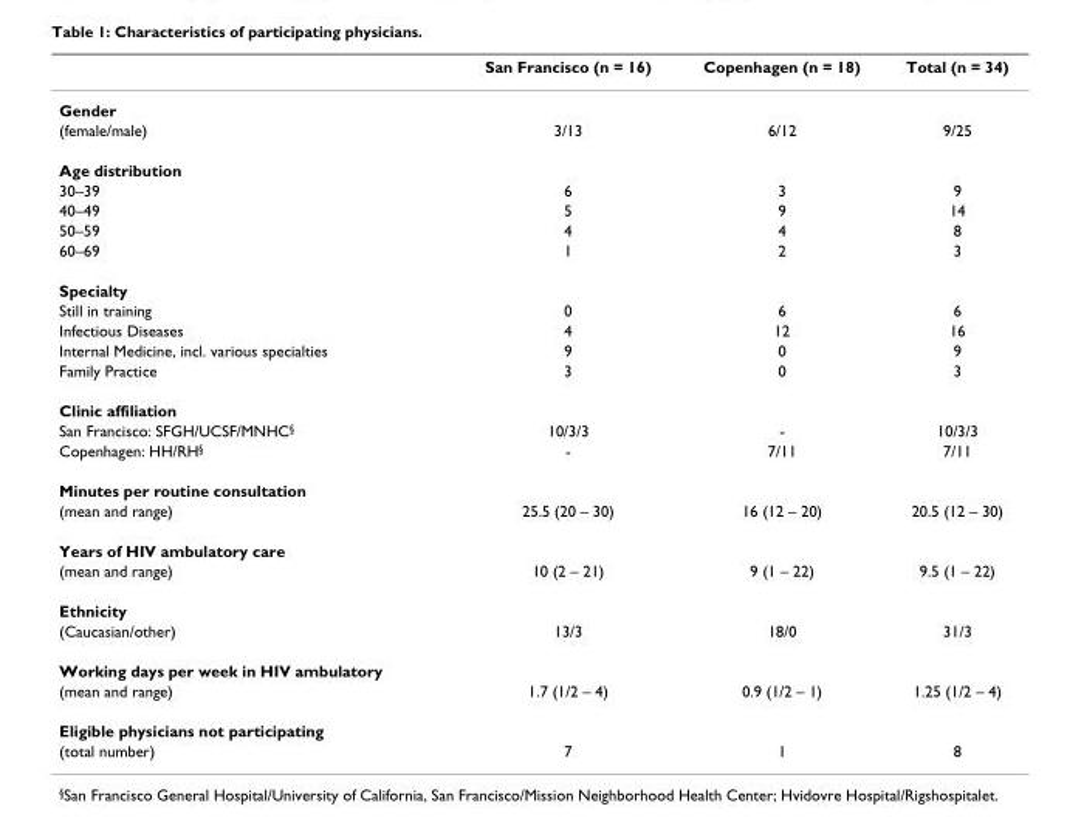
<table><thead><tr><td></td><td>San Francisco (n = 16)</td><td>Copenhagen (n = 18)</td><td>Total (n = 34)</td></tr></thead><tbody><tr><td colspan="4">Gender</td></tr><tr><td>(female/male)</td><td>3/13</td><td>6/12</td><td>9/25</td></tr><tr><td colspan="4">Age distribution</td></tr><tr><td>30–39</td><td>6</td><td>3</td><td>9</td></tr><tr><td>40–49</td><td>5</td><td>9</td><td>14</td></tr><tr><td>50–59</td><td>4</td><td>4</td><td>8</td></tr><tr><td>60–69</td><td>1</td><td>2</td><td>3</td></tr><tr><td colspan="4">Specialty</td></tr><tr><td>Still in training</td><td>0</td><td>6</td><td>6</td></tr><tr><td>Infectious Diseases</td><td>4</td><td>12</td><td>16</td></tr><tr><td>Internal Medicine, incl. various specialties</td><td>9</td><td>0</td><td>9</td></tr><tr><td>Family Practice</td><td>3</td><td>0</td><td>3</td></tr><tr><td colspan="4">Clinic affiliation</td></tr><tr><td>San Francisco: SFGH/UCSF/MNHC§</td><td>10/3/3</td><td>-</td><td>10/3/3</td></tr><tr><td>Copenhagen: HH/RH§</td><td>-</td><td>7/11</td><td>7/11</td></tr><tr><td colspan="4">Minutes per routine consultation</td></tr><tr><td>(mean and range)</td><td>25.5 (20 – 30)</td><td>16 (12 – 20)</td><td>20.5 (12 – 30)</td></tr><tr><td colspan="4">Years of HIV ambulatory care</td></tr><tr><td>(mean and range)</td><td>10 (2 – 21)</td><td>9 (1 – 22)</td><td>9.5 (1 – 22)</td></tr><tr><td colspan="4">Ethnicity</td></tr><tr><td>(Caucasian/other)</td><td>13/3</td><td>18/0</td><td>31/3</td></tr><tr><td colspan="4">Working days per week in HIV ambulatory</td></tr><tr><td>(mean and range)</td><td>1.7 (1/2 – 4)</td><td>0.9 (1/2 – 1)</td><td>1.25 (1/2 – 4)</td></tr><tr><td colspan="4">Eligible physicians not participating</td></tr><tr><td>(total number)</td><td>7</td><td>1</td><td>8</td></tr></tbody></table>